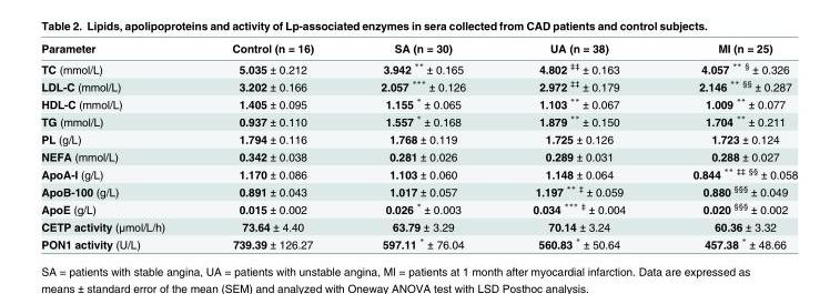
<table><thead><tr><td>Parameter</td><td>Control (n = 16)</td><td>SA (n = 30)</td><td>UA (n = 38)</td><td>MI (n = 25)</td></tr></thead><tbody><tr><td>TC (mmol/L)</td><td>5.035 ± 0.212</td><td>3.942 ** ± 0.165</td><td>4.802 <sup>‡‡</sup> ± 0.163</td><td>4.057 <sup>** §</sup> ± 0.326</td></tr><tr><td>LDL-C (mmol/L)</td><td>3.202 ± 0.166</td><td>2.057 *** ± 0.126</td><td>2.972 <sup>‡‡</sup> ± 0.179</td><td>2.146 <sup>** §§</sup> ± 0.287</td></tr><tr><td>HDL-C (mmol/L)</td><td>1.405 ± 0.095</td><td>1.155 * ± 0.065</td><td>1.103 ** ± 0.067</td><td>1.009 ** ± 0.077</td></tr><tr><td>TG (mmol/L)</td><td>0.937 ± 0.110</td><td>1.557 * ± 0.168</td><td>1.879 ** ± 0.150</td><td>1.704 ** ± 0.211</td></tr><tr><td>PL (g/L)</td><td>1.794 ± 0.116</td><td>1.768 ± 0.119</td><td>1.725 ± 0.126</td><td>1.723 ± 0.124</td></tr><tr><td>NEFA (mmol/L)</td><td>0.342 ± 0.038</td><td>0.281 ± 0.026</td><td>0.289 ± 0.031</td><td>0.288 ± 0.027</td></tr><tr><td>ApoA-I (g/L)</td><td>1.170 ± 0.086</td><td>1.103 ± 0.060</td><td>1.148 ± 0.064</td><td>0.844 <sup>** ‡‡ §§</sup> ± 0.058</td></tr><tr><td>ApoB-100 (g/L)</td><td>0.891 ± 0.043</td><td>1.017 ± 0.057</td><td>1.197 <sup>** ‡</sup> ± 0.059</td><td>0.880 <sup>§§§</sup> ± 0.049</td></tr><tr><td>ApoE (g/L)</td><td>0.015 ± 0.002</td><td>0.026 * ± 0.003</td><td>0.034 <sup>*** ‡</sup> ± 0.004</td><td>0.020 <sup>§§§</sup> ± 0.002</td></tr><tr><td>CETP activity (μmol/L/h)</td><td>73.64 ± 4.40</td><td>63.79 ± 3.29</td><td>70.14 ± 3.24</td><td>60.36 ± 3.32</td></tr><tr><td>PON1 activity (U/L)</td><td>739.39 ± 126.27</td><td>597.11 * ± 76.04</td><td>560.83 * ± 50.64</td><td>457.38 * ± 48.66</td></tr></tbody></table>